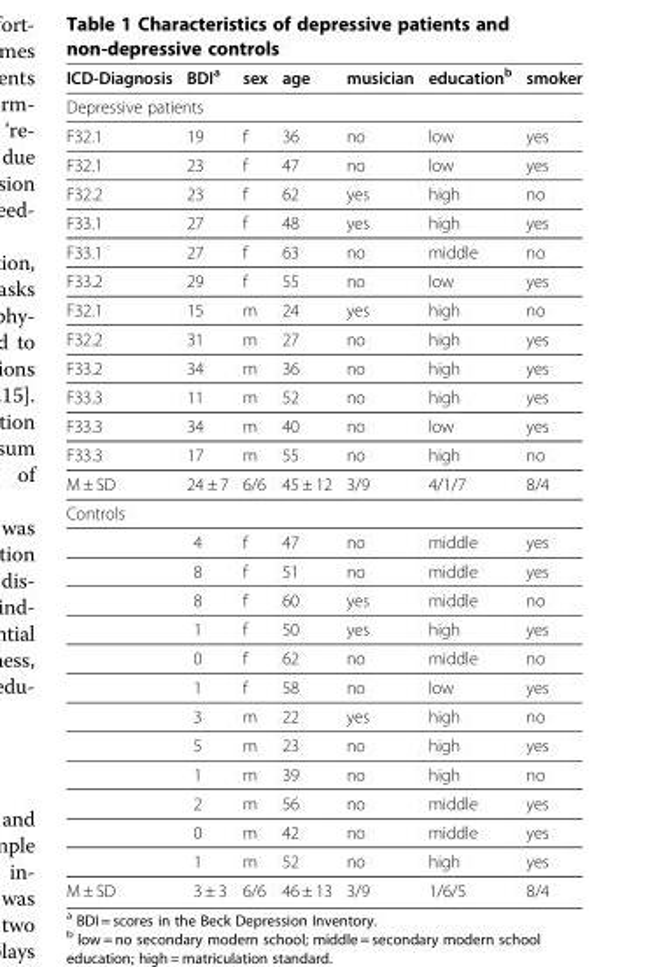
<table><thead><tr><td>ICD-Diagnosis</td><td>BDI<sup>a</sup></td><td>sex</td><td>age</td><td>musician</td><td>education<sup>b</sup></td><td>smoker</td></tr></thead><tbody><tr><td colspan="7">Depressive patients</td></tr><tr><td>F32.1</td><td>19</td><td>f</td><td>36</td><td>no</td><td>low</td><td>yes</td></tr><tr><td>F32.1</td><td>23</td><td>f</td><td>47</td><td>no</td><td>low</td><td>yes</td></tr><tr><td>F32.2</td><td>23</td><td>f</td><td>62</td><td>yes</td><td>high</td><td>no</td></tr><tr><td>F33.1</td><td>27</td><td>f</td><td>48</td><td>yes</td><td>high</td><td>yes</td></tr><tr><td>F33.1</td><td>27</td><td>f</td><td>63</td><td>no</td><td>middle</td><td>no</td></tr><tr><td>F33.2</td><td>29</td><td>f</td><td>55</td><td>no</td><td>low</td><td>yes</td></tr><tr><td>F32.1</td><td>15</td><td>m</td><td>24</td><td>yes</td><td>high</td><td>no</td></tr><tr><td>F32.2</td><td>31</td><td>m</td><td>27</td><td>no</td><td>high</td><td>yes</td></tr><tr><td>F33.2</td><td>34</td><td>m</td><td>36</td><td>no</td><td>high</td><td>yes</td></tr><tr><td>F33.3</td><td>11</td><td>m</td><td>52</td><td>no</td><td>high</td><td>yes</td></tr><tr><td>F33.3</td><td>34</td><td>m</td><td>40</td><td>no</td><td>low</td><td>yes</td></tr><tr><td>F33.3</td><td>17</td><td>m</td><td>55</td><td>no</td><td>high</td><td>no</td></tr><tr><td>M ± SD</td><td>24 ± 7</td><td>6/6</td><td>45 ± 12</td><td>3/9</td><td>4/1/7</td><td>8/4</td></tr><tr><td colspan="7">Controls</td></tr><tr><td></td><td>4</td><td>f</td><td>47</td><td>no</td><td>middle</td><td>yes</td></tr><tr><td></td><td>8</td><td>f</td><td>51</td><td>no</td><td>middle</td><td>yes</td></tr><tr><td></td><td>8</td><td>f</td><td>60</td><td>yes</td><td>middle</td><td>no</td></tr><tr><td></td><td>1</td><td>f</td><td>50</td><td>yes</td><td>high</td><td>yes</td></tr><tr><td></td><td>0</td><td>f</td><td>62</td><td>no</td><td>middle</td><td>no</td></tr><tr><td></td><td>1</td><td>f</td><td>58</td><td>no</td><td>low</td><td>yes</td></tr><tr><td></td><td>3</td><td>m</td><td>22</td><td>yes</td><td>high</td><td>no</td></tr><tr><td></td><td>5</td><td>m</td><td>23</td><td>no</td><td>high</td><td>yes</td></tr><tr><td></td><td>1</td><td>m</td><td>39</td><td>no</td><td>high</td><td>no</td></tr><tr><td></td><td>2</td><td>m</td><td>56</td><td>no</td><td>middle</td><td>yes</td></tr><tr><td></td><td>0</td><td>m</td><td>42</td><td>no</td><td>middle</td><td>yes</td></tr><tr><td></td><td>1</td><td>m</td><td>52</td><td>no</td><td>high</td><td>yes</td></tr><tr><td>M ± SD</td><td>3 ± 3</td><td>6/6</td><td>46 ± 13</td><td>3/9</td><td>1/6/5</td><td>8/4</td></tr></tbody></table>